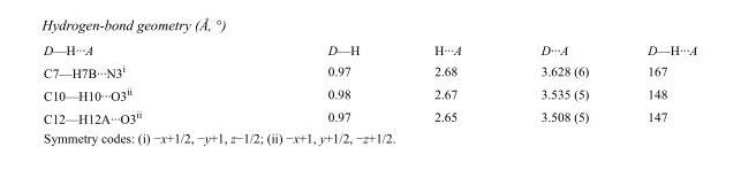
<table><tbody><tr><td>D—H···A</td><td>D—H</td><td>H···A</td><td>D···A</td><td>D—H···A</td></tr><tr><td>C7—H7B···N3<sup>i</sup></td><td>0.97</td><td>2.68</td><td>3.628 (6)</td><td>167</td></tr><tr><td>C10—H10···O3<sup>ii</sup></td><td>0.98</td><td>2.67</td><td>3.535 (5)</td><td>148</td></tr><tr><td>C12—H12A···O3<sup>ii</sup></td><td>0.97</td><td>2.65</td><td>3.508 (5)</td><td>147</td></tr></tbody></table>